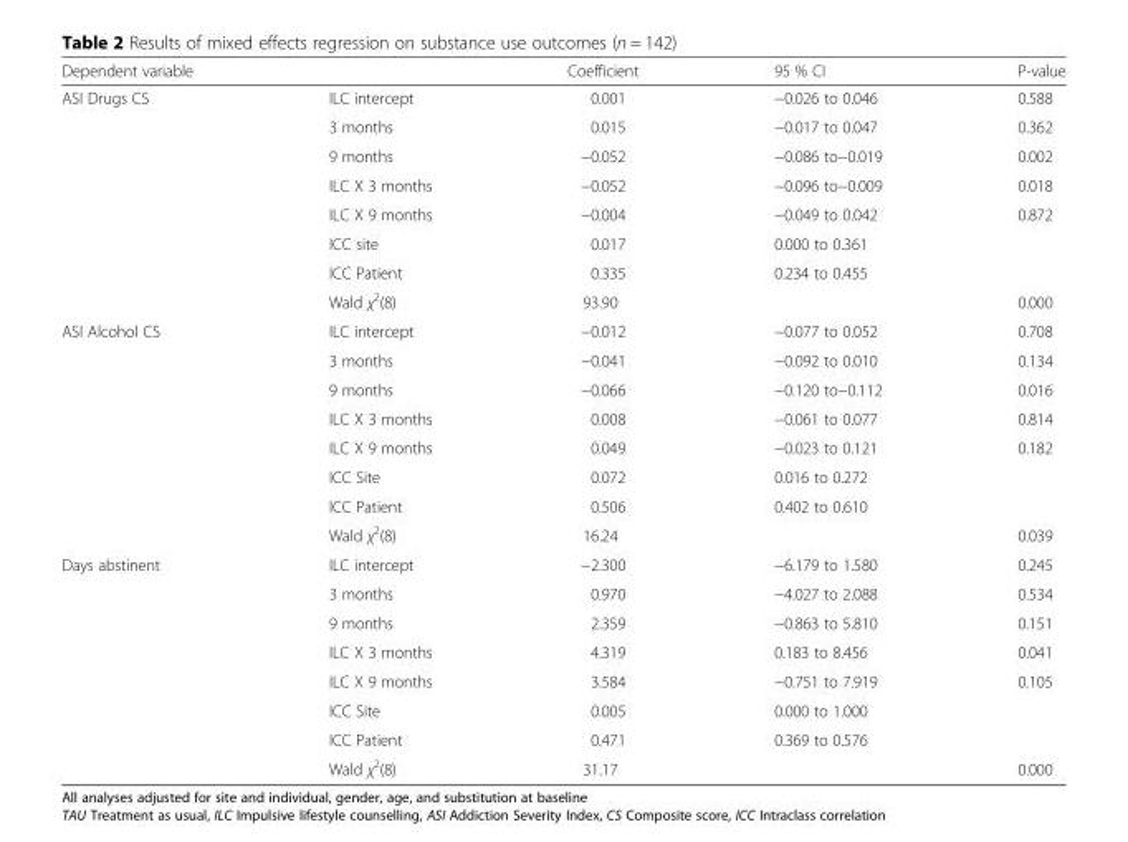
<table><thead><tr><td>Dependent variable</td><td></td><td>Coefficient</td><td>95 % CI</td><td>P-value</td></tr></thead><tbody><tr><td rowspan="8">ASI Drugs CS</td><td>ILC intercept</td><td>0.001</td><td>−0.026 to 0.046</td><td>0.588</td></tr><tr><td>3 months</td><td>0.015</td><td>−0.017 to 0.047</td><td>0.362</td></tr><tr><td>9 months</td><td>−0.052</td><td>−0.086 to−0.019</td><td>0.002</td></tr><tr><td>ILC X 3 months</td><td>−0.052</td><td>−0.096 to−0.009</td><td>0.018</td></tr><tr><td>ILC X 9 months</td><td>−0.004</td><td>−0.049 to 0.042</td><td>0.872</td></tr><tr><td>ICC site</td><td>0.017</td><td>0.000 to 0.361</td><td></td></tr><tr><td>ICC Patient</td><td>0.335</td><td>0.234 to 0.455</td><td></td></tr><tr><td>Wald χ<sup>2</sup>(8)</td><td>93.90</td><td></td><td>0.000</td></tr><tr><td rowspan="8">ASI Alcohol CS</td><td>ILC intercept</td><td>−0.012</td><td>−0.077 to 0.052</td><td>0.708</td></tr><tr><td>3 months</td><td>−0.041</td><td>−0.092 to 0.010</td><td>0.134</td></tr><tr><td>9 months</td><td>−0.066</td><td>−0.120 to−0.112</td><td>0.016</td></tr><tr><td>ILC X 3 months</td><td>0.008</td><td>−0.061 to 0.077</td><td>0.814</td></tr><tr><td>ILC X 9 months</td><td>0.049</td><td>−0.023 to 0.121</td><td>0.182</td></tr><tr><td>ICC Site</td><td>0.072</td><td>0.016 to 0.272</td><td></td></tr><tr><td>ICC Patient</td><td>0.506</td><td>0.402 to 0.610</td><td></td></tr><tr><td>Wald χ<sup>2</sup>(8)</td><td>16.24</td><td></td><td>0.039</td></tr><tr><td rowspan="8">Days abstinent</td><td>ILC intercept</td><td>−2.300</td><td>−6.179 to 1.580</td><td>0.245</td></tr><tr><td>3 months</td><td>0.970</td><td>−4.027 to 2.088</td><td>0.534</td></tr><tr><td>9 months</td><td>2.359</td><td>−0.863 to 5.810</td><td>0.151</td></tr><tr><td>ILC X 3 months</td><td>4.319</td><td>0.183 to 8.456</td><td>0.041</td></tr><tr><td>ILC X 9 months</td><td>3.584</td><td>−0.751 to 7.919</td><td>0.105</td></tr><tr><td>ICC Site</td><td>0.005</td><td>0.000 to 1.000</td><td></td></tr><tr><td>ICC Patient</td><td>0.471</td><td>0.369 to 0.576</td><td></td></tr><tr><td>Wald χ<sup>2</sup>(8)</td><td>31.17</td><td></td><td>0.000</td></tr></tbody></table>